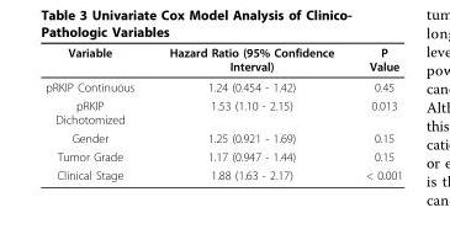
<table><thead><tr><td>Variable</td><td>Hazard Ratio (95% Confidence Interval)</td><td>P Value</td></tr></thead><tbody><tr><td>pRKIP Continuous</td><td>1.24 (0.454 - 1.42)</td><td>0.45</td></tr><tr><td>pRKIP Dichotomized</td><td>1.53 (1.10 - 2.15)</td><td>0.013</td></tr><tr><td>Gender</td><td>1.25 (0.921 - 1.69)</td><td>0.15</td></tr><tr><td>Tumor Grade</td><td>1.17 (0.947 - 1.44)</td><td>0.15</td></tr><tr><td>Clinical Stage</td><td>1.88 (1.63 - 2.17)</td><td>&lt; 0.001</td></tr></tbody></table>